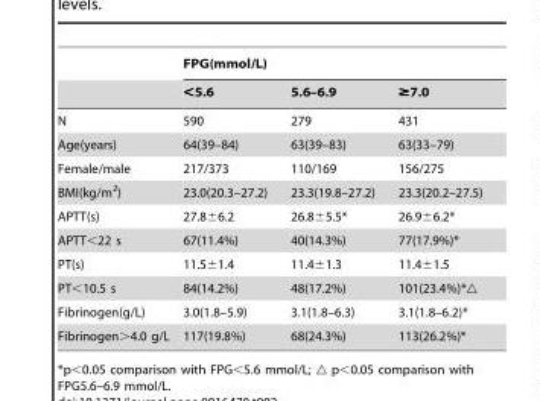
<table><thead><tr><td rowspan="2"></td><td colspan="3">FPG(mmol/L)</td></tr><tr><td>&lt;5.6</td><td>5.6–6.9</td><td>≥7.0</td></tr></thead><tbody><tr><td>N</td><td>590</td><td>279</td><td>431</td></tr><tr><td>Age(years)</td><td>64(39–84)</td><td>63(39–83)</td><td>63(33–79)</td></tr><tr><td>Female/male</td><td>217/373</td><td>110/169</td><td>156/275</td></tr><tr><td>BMI(kg/m<sup>2</sup>)</td><td>23.0(20.3–27.2)</td><td>23.3(19.8–27.2)</td><td>23.3(20.2–27.5)</td></tr><tr><td>APTT(s)</td><td>27.8±6.2</td><td>26.8±5.5*</td><td>26.9±6.2*</td></tr><tr><td>APTT&lt;22 s</td><td>67(11.4%)</td><td>40(14.3%)</td><td>77(17.9%)*</td></tr><tr><td>PT(s)</td><td>11.5±1.4</td><td>11.4±1.3</td><td>11.4±1.5</td></tr><tr><td>PT&lt;10.5 s</td><td>84(14.2%)</td><td>48(17.2%)</td><td>101(23.4%)*△</td></tr><tr><td>Fibrinogen(g/L)</td><td>3.0(1.8–5.9)</td><td>3.1(1.8–6.3)</td><td>3.1(1.8–6.2)*</td></tr><tr><td>Fibrinogen&gt;4.0 g/L</td><td>117(19.8%)</td><td>68(24.3%)</td><td>113(26.2%)*</td></tr></tbody></table>